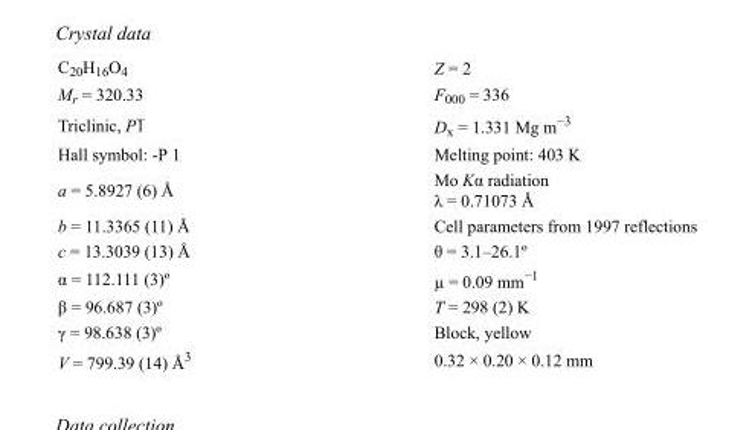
<table><tbody><tr><td>C<sub>20</sub>H<sub>16</sub>O<sub>4</sub></td><td>Z = 2</td></tr><tr><td>M<sub>r</sub> = 320.33</td><td>F<sub>000</sub> = 336</td></tr><tr><td>Triclinic, P1</td><td>D<sub>x</sub> = 1.331 Mg m<sup>−3</sup></td></tr><tr><td>Hall symbol: -P 1</td><td>Melting point: 403 K</td></tr><tr><td>a = 5.8927 (6) Å</td><td>Mo Kα radiation λ = 0.71073 Å</td></tr><tr><td>b = 11.3365 (11) Å</td><td>Cell parameters from 1997 reflections</td></tr><tr><td>c = 13.3039 (13) Å</td><td>θ = 3.1–26.1º</td></tr><tr><td>α = 112.111 (3)º</td><td>µ = 0.09 mm<sup>−1</sup></td></tr><tr><td>β = 96.687 (3)º</td><td>T = 298 (2) K</td></tr><tr><td>γ = 98.638 (3)º</td><td>Block, yellow</td></tr><tr><td>V = 799.39 (14) Å<sup>3</sup></td><td>0.32 × 0.20 × 0.12 mm</td></tr></tbody></table>